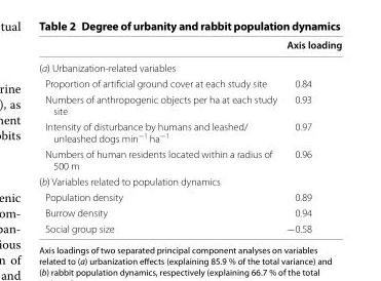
<table><thead><tr><td></td><td>Axis loading</td></tr></thead><tbody><tr><td colspan="2">(a) Urbanization‑related variables</td></tr><tr><td>Proportion of artificial ground cover at each study site</td><td>0.84</td></tr><tr><td>Numbers of anthropogenic objects per ha at each study site</td><td>0.93</td></tr><tr><td>Intensity of disturbance by humans and leashed/ unleashed dogs min<sup>−1</sup> ha<sup>−1</sup></td><td>0.97</td></tr><tr><td>Numbers of human residents located within a radius of 500 m</td><td>0.96</td></tr><tr><td colspan="2">(b) Variables related to population dynamics</td></tr><tr><td>Population density</td><td>0.89</td></tr><tr><td>Burrow density</td><td>0.94</td></tr><tr><td>Social group size</td><td>−0.58</td></tr></tbody></table>